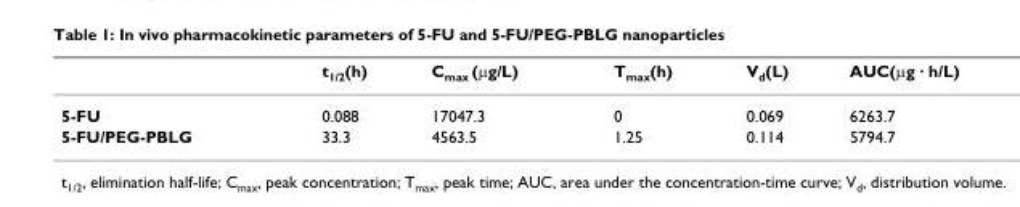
<table><thead><tr><td></td><td>t<sub>1/2</sub>(h)</td><td>C<sub>max</sub> (μg/L)</td><td>T<sub>max</sub>(h)</td><td>V<sub>d</sub>(L)</td><td>AUC(μg · h/L)</td></tr></thead><tbody><tr><td>5-FU</td><td>0.088</td><td>17047.3</td><td>0</td><td>0.069</td><td>6263.7</td></tr><tr><td>5-FU/PEG-PBLG</td><td>33.3</td><td>4563.5</td><td>1.25</td><td>0.114</td><td>5794.7</td></tr></tbody></table>